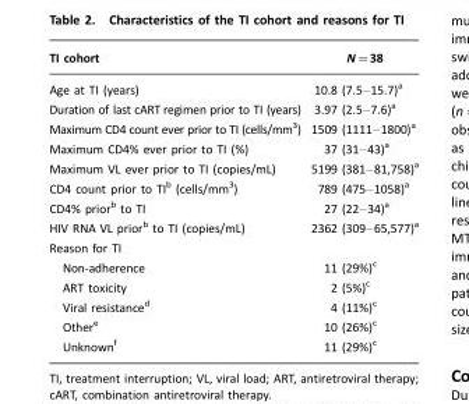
<table><thead><tr><td>TI cohort</td><td>N=38</td></tr></thead><tbody><tr><td>Age at TI (years)</td><td>10.8 (7.5–15.7)<sup>a</sup></td></tr><tr><td>Duration of last cART regimen prior to TI (years)</td><td>3.97 (2.5–7.6)<sup>a</sup></td></tr><tr><td>Maximum CD4 count ever prior to TI (cells/mm<sup>3</sup>)</td><td>1509 (1111–1800)<sup>a</sup></td></tr><tr><td>Maximum CD4% ever prior to TI (%)</td><td>37 (31–43)<sup>a</sup></td></tr><tr><td>Maximum VL ever prior to TI (copies/mL)</td><td>5199 (381–81,758)<sup>a</sup></td></tr><tr><td>CD4 count prior to TI<sup>b</sup> (cells/mm<sup>3</sup>)</td><td>789 (475–1058)<sup>a</sup></td></tr><tr><td>CD4% prior<sup>b</sup> to TI</td><td>27 (22–34)<sup>a</sup></td></tr><tr><td>HIV RNA VL prior<sup>b</sup> to TI (copies/mL)</td><td>2362 (309–65,577)<sup>a</sup></td></tr><tr><td colspan="2">Reason for TI</td></tr><tr><td>Non-adherence</td><td>11 (29%)<sup>c</sup></td></tr><tr><td>ART toxicity</td><td>2 (5%)<sup>c</sup></td></tr><tr><td>Viral resistance<sup>d</sup></td><td>4 (11%)<sup>c</sup></td></tr><tr><td>Other<sup>e</sup></td><td>10 (26%)<sup>c</sup></td></tr><tr><td>Unknown<sup>f</sup></td><td>11 (29%)<sup>c</sup></td></tr></tbody></table>